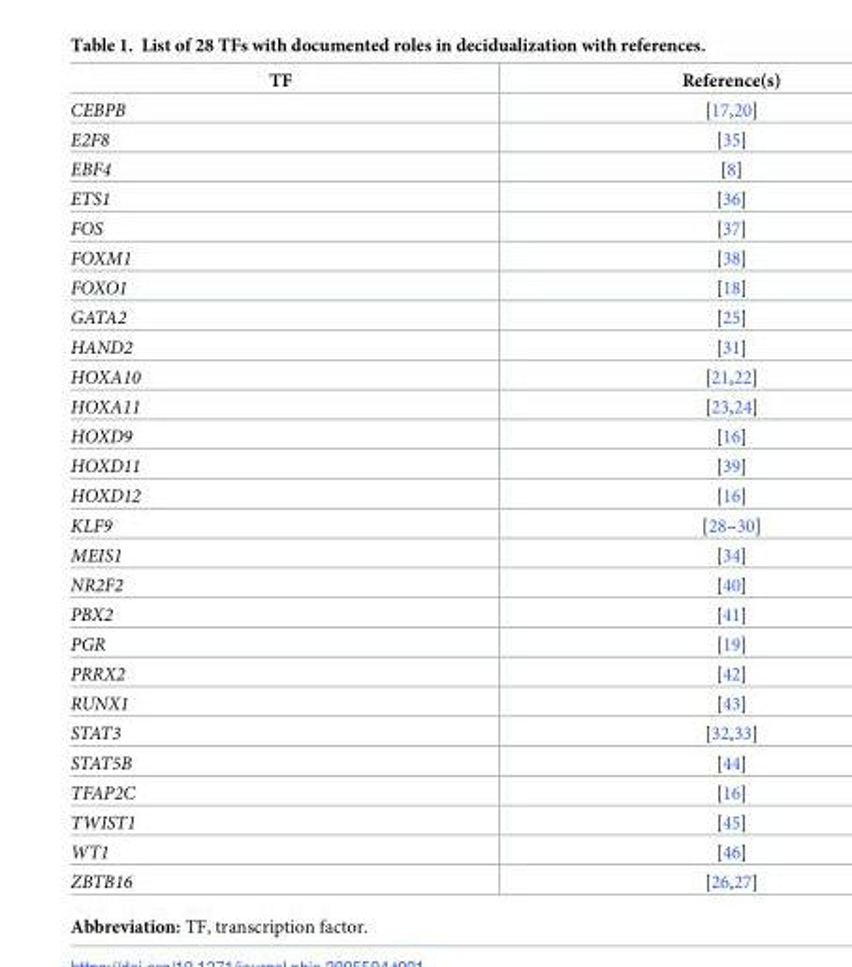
<table><thead><tr><td>TF</td><td>Reference(s)</td></tr></thead><tbody><tr><td>CEBPB</td><td>[17,20]</td></tr><tr><td>E2F8</td><td>[35]</td></tr><tr><td>EBF4</td><td>[8]</td></tr><tr><td>ETS1</td><td>[36]</td></tr><tr><td>FOS</td><td>[37]</td></tr><tr><td>FOXM1</td><td>[38]</td></tr><tr><td>FOXO1</td><td>[18]</td></tr><tr><td>GATA2</td><td>[25]</td></tr><tr><td>HAND2</td><td>[31]</td></tr><tr><td>HOXA10</td><td>[21,22]</td></tr><tr><td>HOXA11</td><td>[23,24]</td></tr><tr><td>HOXD9</td><td>[16]</td></tr><tr><td>HOXD11</td><td>[39]</td></tr><tr><td>HOXD12</td><td>[16]</td></tr><tr><td>KLF9</td><td>[28–30]</td></tr><tr><td>MEIS1</td><td>[34]</td></tr><tr><td>NR2F2</td><td>[40]</td></tr><tr><td>PBX2</td><td>[41]</td></tr><tr><td>PGR</td><td>[19]</td></tr><tr><td>PRRX2</td><td>[42]</td></tr><tr><td>RUNX1</td><td>[43]</td></tr><tr><td>STAT3</td><td>[32,33]</td></tr><tr><td>STAT5B</td><td>[44]</td></tr><tr><td>TFAP2C</td><td>[16]</td></tr><tr><td>TWIST1</td><td>[45]</td></tr><tr><td>WT1</td><td>[46]</td></tr><tr><td>ZBTB16</td><td>[26,27]</td></tr></tbody></table>